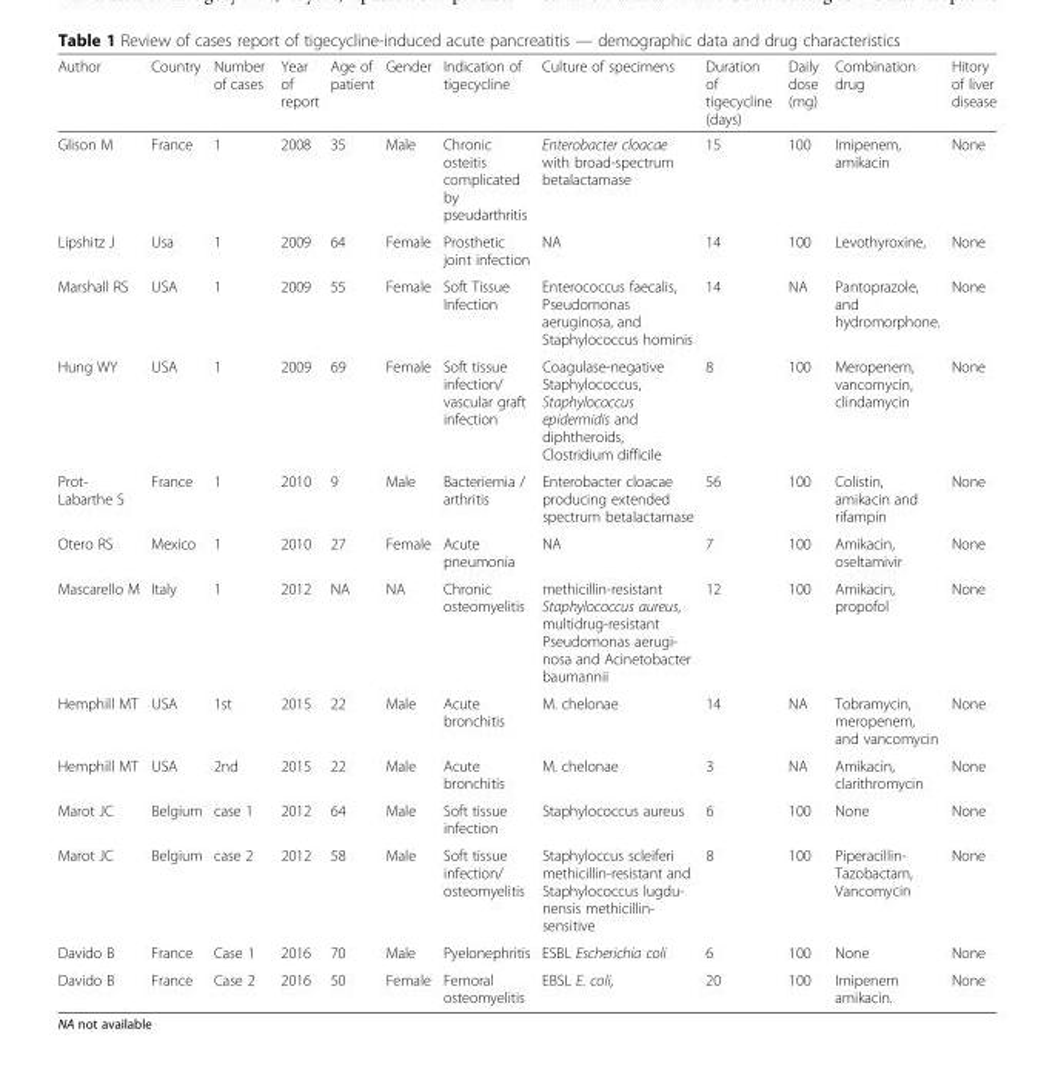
<table><thead><tr><td>Author</td><td>Country</td><td>Number of cases</td><td>Year of report</td><td>Age of patient</td><td>Gender</td><td>Indication of tigecycline</td><td>Culture of specimens</td><td>Duration of tigecycline (days)</td><td>Daily dose (mg)</td><td>Combination drug</td><td>Hitory of liver disease</td></tr></thead><tbody><tr><td>Glison M</td><td>France</td><td>1</td><td>2008</td><td>35</td><td>Male</td><td>Chronic osteitis complicated by pseudarthritis</td><td>Enterobacter cloacae with broad-spectrum betalactamase</td><td>15</td><td>100</td><td>Imipenem, amikacin</td><td>None</td></tr><tr><td>Lipshitz J</td><td>Usa</td><td>1</td><td>2009</td><td>64</td><td>Female</td><td>Prosthetic joint infection</td><td>NA</td><td>14</td><td>100</td><td>Levothyroxine,</td><td>None</td></tr><tr><td>Marshall RS</td><td>USA</td><td>1</td><td>2009</td><td>55</td><td>Female</td><td>Soft Tissue Infection</td><td>Enterococcus faecalis, Pseudomonas aeruginosa, and Staphylococcus hominis</td><td>14</td><td>NA</td><td>Pantoprazole, and hydromorphone.</td><td>None</td></tr><tr><td>Hung WY</td><td>USA</td><td>1</td><td>2009</td><td>69</td><td>Female</td><td>Soft tissue infection/ vascular graft infection</td><td>Coagulase-negative Staphylococcus, Staphylococcus epidermidis and diphtheroids, Clostridium difficile</td><td>8</td><td>100</td><td>Meropenem, vancomycin, clindamycin</td><td>None</td></tr><tr><td>Prot- Labarthe S</td><td>France</td><td>1</td><td>2010</td><td>9</td><td>Male</td><td>Bacteriemia / arthritis</td><td>Enterobacter cloacae producing extended spectrum betalactamase</td><td>56</td><td>100</td><td>Colistin, amikacin and rifampin</td><td>None</td></tr><tr><td>Otero RS</td><td>Mexico</td><td>1</td><td>2010</td><td>27</td><td>Female</td><td>Acute pneumonia</td><td>NA</td><td>7</td><td>100</td><td>Amikacin, oseltamivir</td><td>None</td></tr><tr><td>Mascarello M</td><td>Italy</td><td>1</td><td>2012</td><td>NA</td><td>NA</td><td>Chronic osteomyelitis</td><td>methicillin-resistant Staphylococcus aureus, multidrug-resistant Pseudomonas aerugi- nosa and Acinetobacter baumannii</td><td>12</td><td>100</td><td>Amikacin, propofol</td><td>None</td></tr><tr><td>Hemphill MT</td><td>USA</td><td>1st</td><td>2015</td><td>22</td><td>Male</td><td>Acute bronchitis</td><td>M. chelonae</td><td>14</td><td>NA</td><td>Tobramycin, meropenem, and vancomycin</td><td>None</td></tr><tr><td>Hemphill MT</td><td>USA</td><td>2nd</td><td>2015</td><td>22</td><td>Male</td><td>Acute bronchitis</td><td>M. chelonae</td><td>3</td><td>NA</td><td>Amikacin, clarithromycin</td><td>None</td></tr><tr><td>Marot JC</td><td>Belgium</td><td>case 1</td><td>2012</td><td>64</td><td>Male</td><td>Soft tissue infection</td><td>Staphylococcus aureus</td><td>6</td><td>100</td><td>None</td><td>None</td></tr><tr><td>Marot JC</td><td>Belgium</td><td>case 2</td><td>2012</td><td>58</td><td>Male</td><td>Soft tissue infection/ osteomyelitis</td><td>Staphyloccus scleiferi methicillin-resistant and Staphylococcus lugdu- nensis methicillin- sensitive</td><td>8</td><td>100</td><td>Piperacillin- Tazobactam, Vancomycin</td><td>None</td></tr><tr><td>Davido B</td><td>France</td><td>Case 1</td><td>2016</td><td>70</td><td>Male</td><td>Pyelonephritis</td><td>ESBL Escherichia coli</td><td>6</td><td>100</td><td>None</td><td>None</td></tr><tr><td>Davido B</td><td>France</td><td>Case 2</td><td>2016</td><td>50</td><td>Female</td><td>Femoral osteomyelitis</td><td>EBSL E. coli,</td><td>20</td><td>100</td><td>Imipenem amikacin.</td><td>None</td></tr></tbody></table>